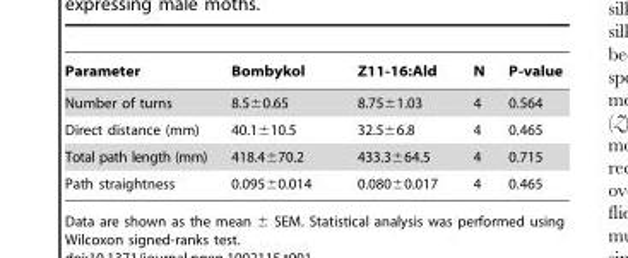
<table><thead><tr><td>Parameter</td><td>Bombykol</td><td>Z11-16:Ald</td><td>N</td><td>P-value</td></tr></thead><tbody><tr><td>Number of turns</td><td>8.5±0.65</td><td>8.75±1.03</td><td>4</td><td>0.564</td></tr><tr><td>Direct distance (mm)</td><td>40.1±10.5</td><td>32.5±6.8</td><td>4</td><td>0.465</td></tr><tr><td>Total path length (mm)</td><td>418.4±70.2</td><td>433.3±64.5</td><td>4</td><td>0.715</td></tr><tr><td>Path straightness</td><td>0.095±0.014</td><td>0.080±0.017</td><td>4</td><td>0.465</td></tr></tbody></table>